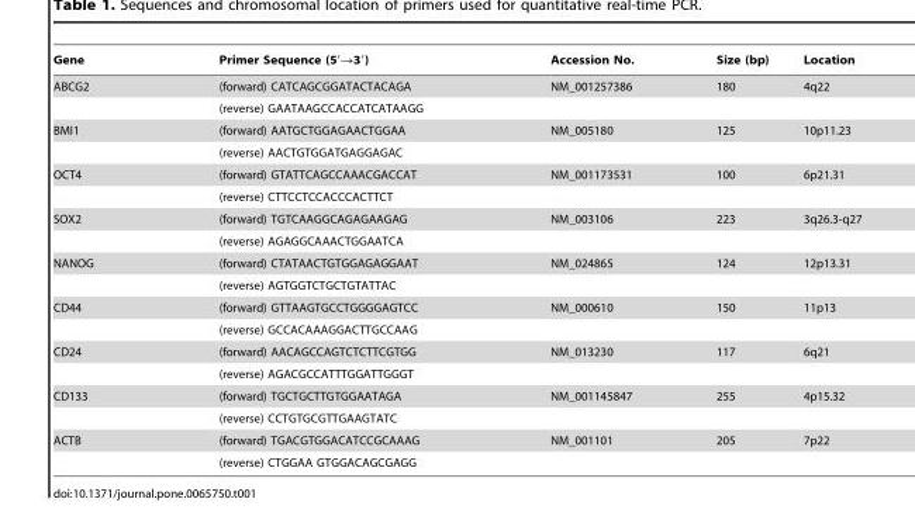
<table><thead><tr><td>Gene</td><td>Primer Sequence (5′→3′)</td><td>Accession No.</td><td>Size (bp)</td><td>Location</td></tr></thead><tbody><tr><td rowspan="2">ABCG2</td><td>(forward) CATCAGCGGATACTACAGA</td><td>NM_001257386</td><td>180</td><td>4q22</td></tr><tr><td>(reverse) GAATAAGCCACCATCATAAGG</td><td></td><td></td><td></td></tr><tr><td rowspan="2">BMI1</td><td>(forward) AATGCTGGAGAACTGGAA</td><td>NM_005180</td><td>125</td><td>10p11.23</td></tr><tr><td>(reverse) AACTGTGGATGAGGAGAC</td><td></td><td></td><td></td></tr><tr><td rowspan="2">OCT4</td><td>(forward) GTATTCAGCCAAACGACCAT</td><td>NM_001173531</td><td>100</td><td>6p21.31</td></tr><tr><td>(reverse) CTTCCTCCACCCACTTCT</td><td></td><td></td><td></td></tr><tr><td rowspan="2">SOX2</td><td>(forward) TGTCAAGGCAGAGAAGAG</td><td>NM_003106</td><td>223</td><td>3q26.3-q27</td></tr><tr><td>(reverse) AGAGGCAAACTGGAATCA</td><td></td><td></td><td></td></tr><tr><td rowspan="2">NANOG</td><td>(forward) CTATAACTGTGGAGAGGAAT</td><td>NM_024865</td><td>124</td><td>12p13.31</td></tr><tr><td>(reverse) AGTGGTCTGCTGTATTAC</td><td></td><td></td><td></td></tr><tr><td rowspan="2">CD44</td><td>(forward) GTTAAGTGCCTGGGGAGTCC</td><td>NM_000610</td><td>150</td><td>11p13</td></tr><tr><td>(reverse) GCCACAAAGGACTTGCCAAG</td><td></td><td></td><td></td></tr><tr><td rowspan="2">CD24</td><td>(forward) AACAGCCAGTCTCTTCGTGG</td><td>NM_013230</td><td>117</td><td>6q21</td></tr><tr><td>(reverse) AGACGCCATTTGGATTGGGT</td><td></td><td></td><td></td></tr><tr><td rowspan="2">CD133</td><td>(forward) TGCTGCTTGTGGAATAGA</td><td>NM_001145847</td><td>255</td><td>4p15.32</td></tr><tr><td>(reverse) CCTGTGCGTTGAAGTATC</td><td></td><td></td><td></td></tr><tr><td rowspan="2">ACTB</td><td>(forward) TGACGTGGACATCCGCAAAG</td><td>NM_001101</td><td>205</td><td>7p22</td></tr><tr><td>(reverse) CTGGAA GTGGACAGCGAGG</td><td></td><td></td><td></td></tr></tbody></table>